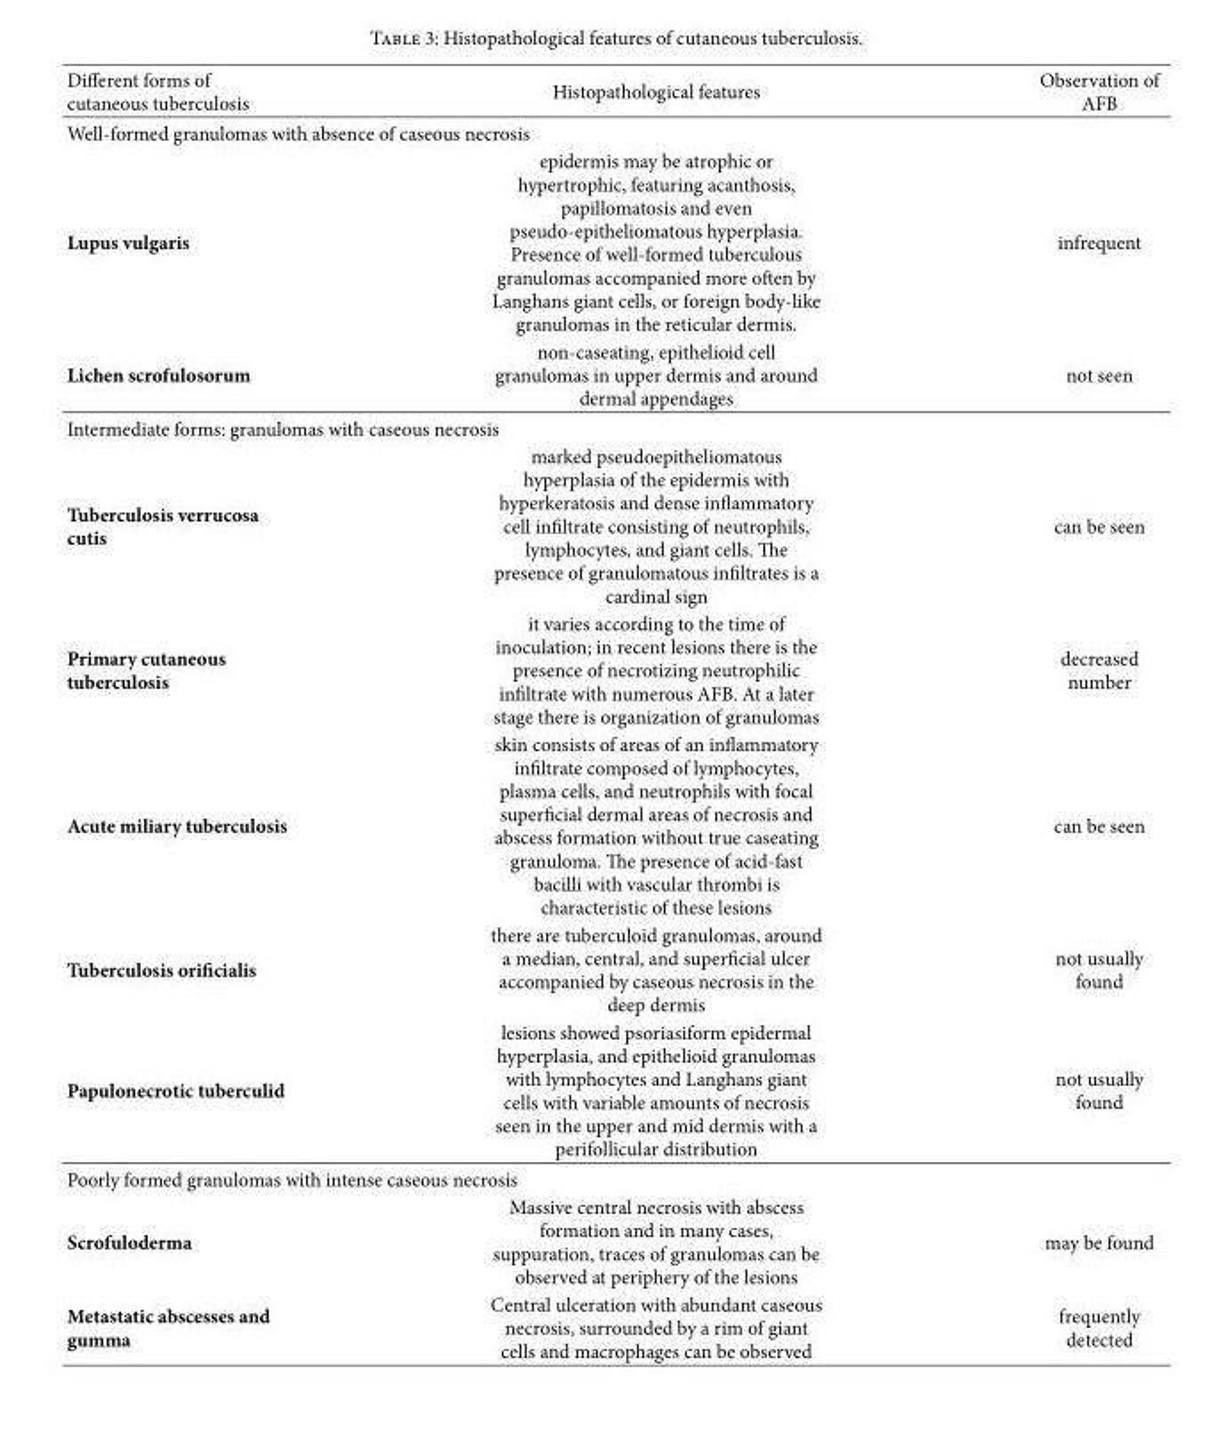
<table><thead><tr><td>Different forms of cutaneous tuberculosis</td><td>Histopathological features</td><td>Observation of AFB</td></tr></thead><tbody><tr><td colspan="3">Well-formed granulomas with absence of caseous necrosis</td></tr><tr><td>Lupus vulgaris</td><td>epidermis may be atrophic or hypertrophic, featuring acanthosis, papillomatosis and even pseudo-epitheliomatous hyperplasia. Presence of well-formed tuberculous granulomas accompanied more often by Langhans giant cells, or foreign body-like granulomas in the reticular dermis.</td><td>infrequent</td></tr><tr><td>Lichen scrofulosorum</td><td>non-caseating, epithelioid cell granulomas in upper dermis and around dermal appendages</td><td>not seen</td></tr><tr><td colspan="3">Intermediate forms: granulomas with caseous necrosis</td></tr><tr><td>Tuberculosis verrucosa cutis</td><td>marked pseudoepitheliomatous hyperplasia of the epidermis with hyperkeratosis and dense inflammatory cell infiltrate consisting of neutrophils, lymphocytes, and giant cells. The presence of granulomatous infiltrates is a cardinal sign</td><td>can be seen</td></tr><tr><td>Primary cutaneous tuberculosis</td><td>it varies according to the time of inoculation; in recent lesions there is the presence of necrotizing neutrophilic infiltrate with numerous AFB. At a later stage there is organization of granulomas</td><td>decreased number</td></tr><tr><td>Acute miliary tuberculosis</td><td>skin consists of areas of an inflammatory infiltrate composed of lymphocytes, plasma cells, and neutrophils with focal superficial dermal areas of necrosis and abscess formation without true caseating granuloma. The presence of acid-fast bacilli with vascular thrombi is characteristic of these lesions</td><td>can be seen</td></tr><tr><td>Tuberculosis orificialis</td><td>there are tuberculoid granulomas, around a median, central, and superficial ulcer accompanied by caseous necrosis in the deep dermis</td><td>not usually found</td></tr><tr><td>Papulonecrotic tuberculid</td><td>lesions showed psoriasiform epidermal hyperplasia, and epithelioid granulomas with lymphocytes and Langhans giant cells with variable amounts of necrosis seen in the upper and mid dermis with a perifollicular distribution</td><td>not usually found</td></tr><tr><td colspan="3">Poorly formed granulomas with intense caseous necrosis</td></tr><tr><td>Scrofuloderma</td><td>Massive central necrosis with abscess formation and in many cases, suppuration, traces of granulomas can be observed at periphery of the lesions</td><td>may be found</td></tr><tr><td>Metastatic abscesses and gumma</td><td>Central ulceration with abundant caseous necrosis, surrounded by a rim of giant cells and macrophages can be observed</td><td>frequently detected</td></tr></tbody></table>